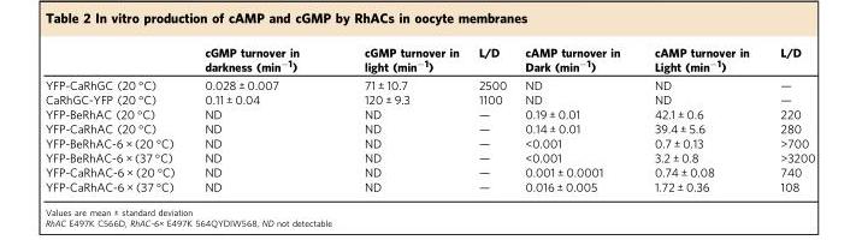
<table><thead><tr><td></td><td>cGMP turnover in darkness (min<sup>−1</sup>)</td><td>cGMP turnover in light (min<sup>−1</sup>)</td><td>L/D</td><td>cAMP turnover in Dark (min<sup>−1</sup>)</td><td>cAMP turnover in Light (min<sup>−1</sup>)</td><td>L/D</td></tr></thead><tbody><tr><td>YFP-CaRhGC (20 °C)</td><td>0.028 ± 0.007</td><td>71 ± 10.7</td><td>2500</td><td>ND</td><td>ND</td><td>—</td></tr><tr><td>CaRhGC-YFP (20 °C)</td><td>0.11 ± 0.04</td><td>120 ± 9.3</td><td>1100</td><td>ND</td><td>ND</td><td>—</td></tr><tr><td>YFP-BeRhAC (20 °C)</td><td>ND</td><td>ND</td><td>—</td><td>0.19 ± 0.01</td><td>42.1 ± 0.6</td><td>220</td></tr><tr><td>YFP-CaRhAC (20 °C)</td><td>ND</td><td>ND</td><td>—</td><td>0.14 ± 0.01</td><td>39.4 ± 5.6</td><td>280</td></tr><tr><td>YFP-BeRhAC-6 × (20 °C)</td><td>ND</td><td>ND</td><td>—</td><td>&lt;0.001</td><td>0.7 ± 0.13</td><td>&gt;700</td></tr><tr><td>YFP-BeRhAC-6 × (37 °C)</td><td>ND</td><td>ND</td><td>—</td><td>&lt;0.001</td><td>3.2 ± 0.8</td><td>&gt;3200</td></tr><tr><td>YFP-CaRhAC-6 × (20 °C)</td><td>ND</td><td>ND</td><td>—</td><td>0.001 ± 0.0001</td><td>0.74 ± 0.08</td><td>740</td></tr><tr><td>YFP-CaRhAC-6 × (37 °C)</td><td>ND</td><td>ND</td><td>—</td><td>0.016 ± 0.005</td><td>1.72 ± 0.36</td><td>108</td></tr></tbody></table>